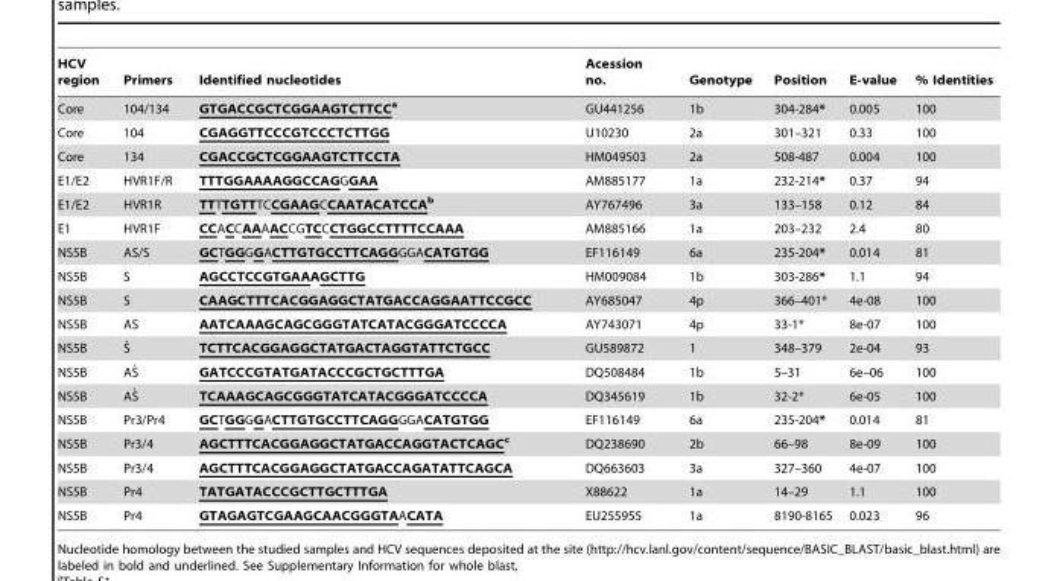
<table><thead><tr><td>HCV region</td><td>Primers</td><td>Identified nucleotides</td><td>Acession no.</td><td>Genotype</td><td>Position</td><td>E-value</td><td>% Identities</td></tr></thead><tbody><tr><td>Core</td><td>104/134</td><td>GTGACCGCTCGGAAGTCTTCCa</td><td>GU441256</td><td>1b</td><td>304-284*</td><td>0.005</td><td>100</td></tr><tr><td>Core</td><td>104</td><td>CGAGGTTCCCGTCCCTCTTGG</td><td>U10230</td><td>2a</td><td>301–321</td><td>0.33</td><td>100</td></tr><tr><td>Core</td><td>134</td><td>CGACCGCTCGGAAGTCTTCCTA</td><td>HM049503</td><td>2a</td><td>508-487</td><td>0.004</td><td>100</td></tr><tr><td>E1/E2</td><td>HVR1F/R</td><td>TTTGGAAAAGGCCAGGGAA</td><td>AM885177</td><td>1a</td><td>232-214*</td><td>0.37</td><td>94</td></tr><tr><td>E1/E2</td><td>HVR1R</td><td>TTTTGTTTCCGAAGCCAATACATCCAb</td><td>AY767496</td><td>3a</td><td>133–158</td><td>0.12</td><td>84</td></tr><tr><td>E1</td><td>HVR1F</td><td>CCACCAAAACCGTCCCTGGCCTTTTCCAAA</td><td>AM885166</td><td>1a</td><td>203–232</td><td>2.4</td><td>80</td></tr><tr><td>NS5B</td><td>AS/S</td><td>GCTGGGGACTTGTGCCTTCAGGGGACATGTGG</td><td>EF116149</td><td>6a</td><td>235-204*</td><td>0.014</td><td>81</td></tr><tr><td>NS5B</td><td>S</td><td>AGCCTCCGTGAAAGCTTG</td><td>HM009084</td><td>1b</td><td>303-286*</td><td>1.1</td><td>94</td></tr><tr><td>NS5B</td><td>S</td><td>CAAGCTTTCACGGAGGCTATGACCAGGAATTCCGCC</td><td>AY685047</td><td>4p</td><td>366–401*</td><td>4e-08</td><td>100</td></tr><tr><td>NS5B</td><td>AS</td><td>AATCAAAGCAGCGGGTATCATACGGGATCCCCA</td><td>AY743071</td><td>4p</td><td>33-1*</td><td>8e-07</td><td>100</td></tr><tr><td>NS5B</td><td>S`</td><td>TCTTCACGGAGGCTATGACTAGGTATTCTGCC</td><td>GU589872</td><td>1</td><td>348–379</td><td>2e-04</td><td>93</td></tr><tr><td>NS5B</td><td>AS`</td><td>GATCCCGTATGATACCCGCTGCTTTGA</td><td>DQ508484</td><td>1b</td><td>5–31</td><td>6e–06</td><td>100</td></tr><tr><td>NS5B</td><td>AS`</td><td>TCAAAGCAGCGGGTATCATACGGGATCCCCA</td><td>DQ345619</td><td>1b</td><td>32-2*</td><td>6e-05</td><td>100</td></tr><tr><td>NS5B</td><td>Pr3/Pr4</td><td>GCTGGGGACTTGTGCCTTCAGGGGACATGTGG</td><td>EF116149</td><td>6a</td><td>235-204*</td><td>0.014</td><td>81</td></tr><tr><td>NS5B</td><td>Pr3/4</td><td>AGCTTTCACGGAGGCTATGACCAGGTACTCAGCc</td><td>DQ238690</td><td>2b</td><td>66–98</td><td>8e-09</td><td>100</td></tr><tr><td>NS5B</td><td>Pr3/4</td><td>AGCTTTCACGGAGGCTATGACCAGATATTCAGCA</td><td>DQ663603</td><td>3a</td><td>327–360</td><td>4e-07</td><td>100</td></tr><tr><td>NS5B</td><td>Pr4</td><td>TATGATACCCGCTTGCTTTGA</td><td>X88622</td><td>1a</td><td>14–29</td><td>1.1</td><td>100</td></tr><tr><td>NS5B</td><td>Pr4</td><td>GTAGAGTCGAAGCAACGGGTAACATA</td><td>EU255955</td><td>1a</td><td>8190-8165</td><td>0.023</td><td>96</td></tr></tbody></table>